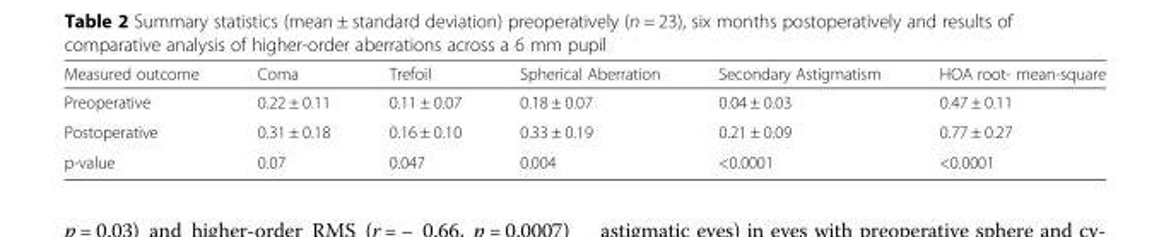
<table><thead><tr><td>Measured outcome</td><td>Coma</td><td>Trefoil</td><td>Spherical Aberration</td><td>Secondary Astigmatism</td><td>HOA root- mean-square</td></tr></thead><tbody><tr><td>Preoperative</td><td>0.22 ± 0.11</td><td>0.11 ± 0.07</td><td>0.18 ± 0.07</td><td>0.04 ± 0.03</td><td>0.47 ± 0.11</td></tr><tr><td>Postoperative</td><td>0.31 ± 0.18</td><td>0.16 ± 0.10</td><td>0.33 ± 0.19</td><td>0.21 ± 0.09</td><td>0.77 ± 0.27</td></tr><tr><td>p-value</td><td>0.07</td><td>0.047</td><td>0.004</td><td>&lt;0.0001</td><td>&lt;0.0001</td></tr></tbody></table>